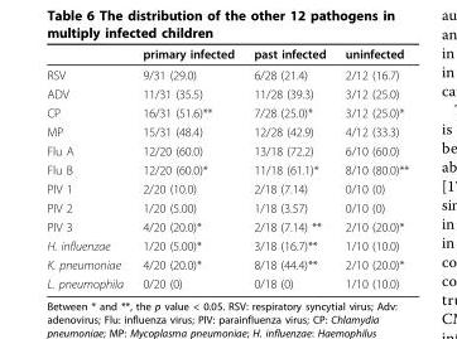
<table><thead><tr><td></td><td>primary infected</td><td>past infected</td><td>uninfected</td></tr></thead><tbody><tr><td>RSV</td><td>9/31 (29.0)</td><td>6/28 (21.4)</td><td>2/12 (16.7)</td></tr><tr><td>ADV</td><td>11/31 (35.5)</td><td>11/28 (39.3)</td><td>3/12 (25.0)</td></tr><tr><td>CP</td><td>16/31 (51.6)**</td><td>7/28 (25.0)*</td><td>3/12 (25.0)*</td></tr><tr><td>MP</td><td>15/31 (48.4)</td><td>12/28 (42.9)</td><td>4/12 (33.3)</td></tr><tr><td>Flu A</td><td>12/20 (60.0)</td><td>13/18 (72.2)</td><td>6/10 (60.0)</td></tr><tr><td>Flu B</td><td>12/20 (60.0)*</td><td>11/18 (61.1)*</td><td>8/10 (80.0)**</td></tr><tr><td>PIV 1</td><td>2/20 (10.0)</td><td>2/18 (7.14)</td><td>0/10 (0)</td></tr><tr><td>PIV 2</td><td>1/20 (5.00)</td><td>1/18 (3.57)</td><td>0/10 (0)</td></tr><tr><td>PIV 3</td><td>4/20 (20.0)*</td><td>2/18 (7.14) **</td><td>2/10 (20.0)*</td></tr><tr><td>H. influenzae</td><td>1/20 (5.00)*</td><td>3/18 (16.7)**</td><td>1/10 (10.0)</td></tr><tr><td>K. pneumoniae</td><td>4/20 (20.0)*</td><td>8/18 (44.4)**</td><td>2/10 (20.0)*</td></tr><tr><td>L. pneumophila</td><td>0/20 (0)</td><td>0/18 (0)</td><td>1/10 (10.0)</td></tr></tbody></table>